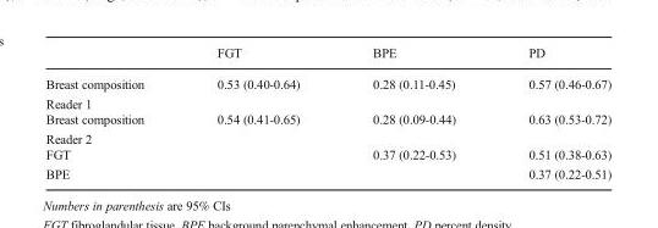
<table><thead><tr><td></td><td>FGT</td><td>BPE</td><td>PD</td></tr></thead><tbody><tr><td>Breast composition Reader 1</td><td>0.53 (0.40-0.64)</td><td>0.28 (0.11-0.45)</td><td>0.57 (0.46-0.67)</td></tr><tr><td>Breast composition Reader 2</td><td>0.54 (0.41-0.65)</td><td>0.28 (0.09-0.44)</td><td>0.63 (0.53-0.72)</td></tr><tr><td>FGT</td><td></td><td>0.37 (0.22-0.53)</td><td>0.51 (0.38-0.63)</td></tr><tr><td>BPE</td><td></td><td></td><td>0.37 (0.22-0.51)</td></tr></tbody></table>